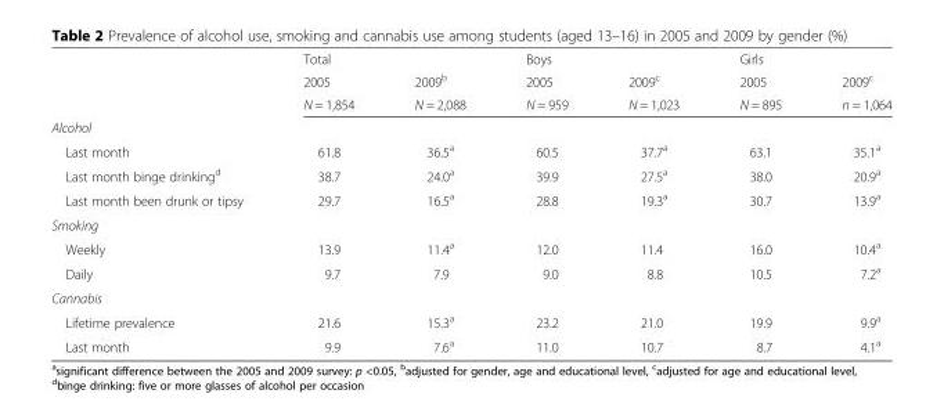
<table><thead><tr><td rowspan="3"></td><td rowspan="3">Total 2005 N = 1,854</td><td rowspan="3">2009<sup>b</sup> N = 2,088</td><td rowspan="3">Boys 2005 N = 959</td><td rowspan="3">2009<sup>c</sup> N = 1,023</td><td rowspan="3">Girls 2005 N = 895</td><td rowspan="3">2009<sup>c</sup> n = 1,064</td></tr><tr></tr><tr></tr></thead><tbody><tr><td colspan="7">Alcohol</td></tr><tr><td>Last month</td><td>61.8</td><td>36.5<sup>a</sup></td><td>60.5</td><td>37.7<sup>a</sup></td><td>63.1</td><td>35.1<sup>a</sup></td></tr><tr><td>Last month binge drinking<sup>d</sup></td><td>38.7</td><td>24.0<sup>a</sup></td><td>39.9</td><td>27.5<sup>a</sup></td><td>38.0</td><td>20.9<sup>a</sup></td></tr><tr><td>Last month been drunk or tipsy</td><td>29.7</td><td>16.5<sup>a</sup></td><td>28.8</td><td>19.3<sup>a</sup></td><td>30.7</td><td>13.9<sup>a</sup></td></tr><tr><td colspan="7">Smoking</td></tr><tr><td>Weekly</td><td>13.9</td><td>11.4<sup>a</sup></td><td>12.0</td><td>11.4</td><td>16.0</td><td>10.4<sup>a</sup></td></tr><tr><td>Daily</td><td>9.7</td><td>7.9</td><td>9.0</td><td>8.8</td><td>10.5</td><td>7.2<sup>a</sup></td></tr><tr><td colspan="7">Cannabis</td></tr><tr><td>Lifetime prevalence</td><td>21.6</td><td>15.3<sup>a</sup></td><td>23.2</td><td>21.0</td><td>19.9</td><td>9.9<sup>a</sup></td></tr><tr><td>Last month</td><td>9.9</td><td>7.6<sup>a</sup></td><td>11.0</td><td>10.7</td><td>8.7</td><td>4.1<sup>a</sup></td></tr></tbody></table>